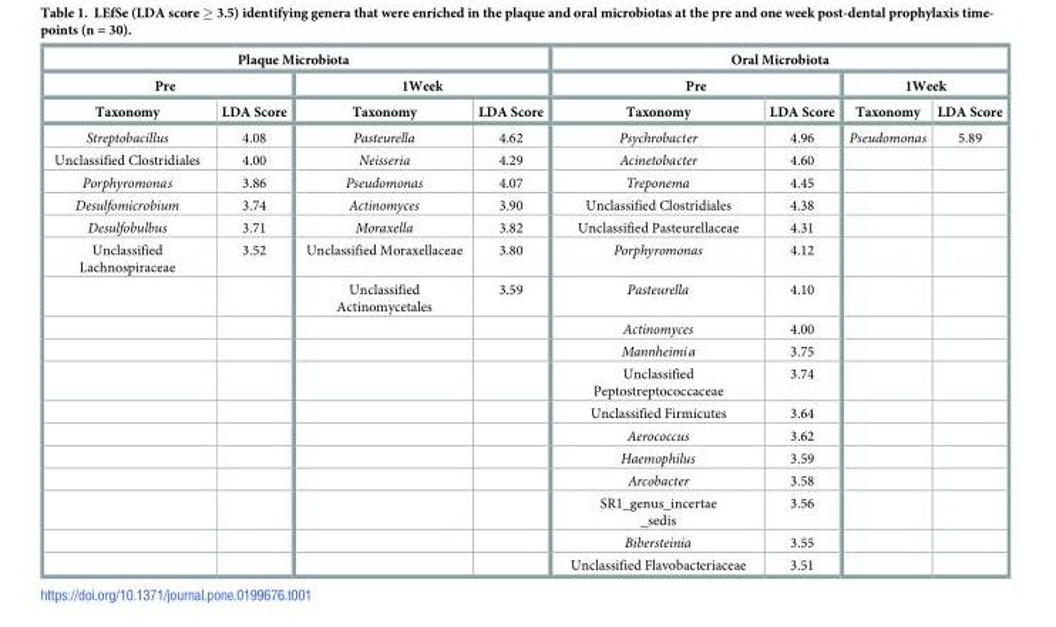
<table><thead><tr><td colspan="4">Plaque Microbiota</td><td colspan="4">Oral Microbiota</td></tr><tr><td colspan="2">Pre</td><td colspan="2">1Week</td><td colspan="2">Pre</td><td colspan="2">1Week</td></tr><tr><td>Taxonomy</td><td>LDA Score</td><td>Taxonomy</td><td>LDA Score</td><td>Taxonomy</td><td>LDA Score</td><td>Taxonomy</td><td>LDA Score</td></tr></thead><tbody><tr><td>Streptobacillus</td><td>4.08</td><td>Pasteurella</td><td>4.62</td><td>Psychrobacter</td><td>4.96</td><td>Pseudomonas</td><td>5.89</td></tr><tr><td>Unclassified Clostridiales</td><td>4.00</td><td>Neisseria</td><td>4.29</td><td>Acinetobacter</td><td>4.60</td><td></td><td></td></tr><tr><td>Porphyromonas</td><td>3.86</td><td>Pseudomonas</td><td>4.07</td><td>Treponema</td><td>4.45</td><td></td><td></td></tr><tr><td>Desulfomicrobium</td><td>3.74</td><td>Actinomyces</td><td>3.90</td><td>Unclassified Clostridiales</td><td>4.38</td><td></td><td></td></tr><tr><td>Desulfobulbus</td><td>3.71</td><td>Moraxella</td><td>3.82</td><td>Unclassified Pasteurellaceae</td><td>4.31</td><td></td><td></td></tr><tr><td rowspan="12">Unclassified Lachnospiraceae</td><td>3.52</td><td>Unclassified Moraxellaceae</td><td>3.80</td><td>Porphyromonas</td><td>4.12</td><td></td><td></td></tr><tr><td></td><td>Unclassified Actinomycetales</td><td>3.59</td><td>Pasteurella</td><td>4.10</td><td></td><td></td></tr><tr><td></td><td></td><td></td><td>Actinomyces</td><td>4.00</td><td></td><td></td></tr><tr><td></td><td></td><td></td><td>Mannheimia</td><td>3.75</td><td></td><td></td></tr><tr><td></td><td></td><td></td><td>Unclassified Peptostreptococcaceae</td><td>3.74</td><td></td><td></td></tr><tr><td></td><td></td><td></td><td>Unclassified Firmicutes</td><td>3.64</td><td></td><td></td></tr><tr><td></td><td></td><td></td><td>Aerococcus</td><td>3.62</td><td></td><td></td></tr><tr><td></td><td></td><td></td><td>Haemophilus</td><td>3.59</td><td></td><td></td></tr><tr><td></td><td></td><td></td><td>Arcobacter</td><td>3.58</td><td></td><td></td></tr><tr><td></td><td></td><td></td><td>SR1_genus_incertae _sedis</td><td>3.56</td><td></td><td></td></tr><tr><td></td><td></td><td></td><td>Bibersteinia</td><td>3.55</td><td></td><td></td></tr><tr><td></td><td></td><td></td><td>Unclassified Flavobacteriaceae</td><td>3.51</td><td></td><td></td></tr></tbody></table>